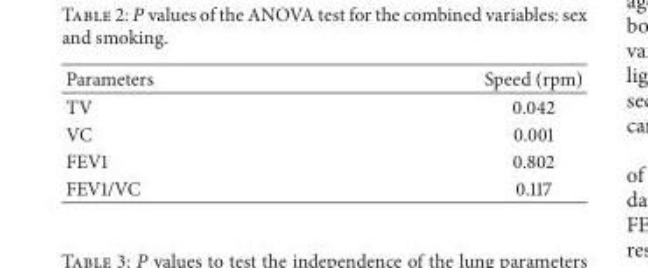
<table><thead><tr><td>Parameters</td><td>Speed (rpm)</td></tr></thead><tbody><tr><td>TV</td><td>0.042</td></tr><tr><td>VC</td><td>0.001</td></tr><tr><td>FEV1</td><td>0.802</td></tr><tr><td>FEV1/VC</td><td>0.117</td></tr></tbody></table>